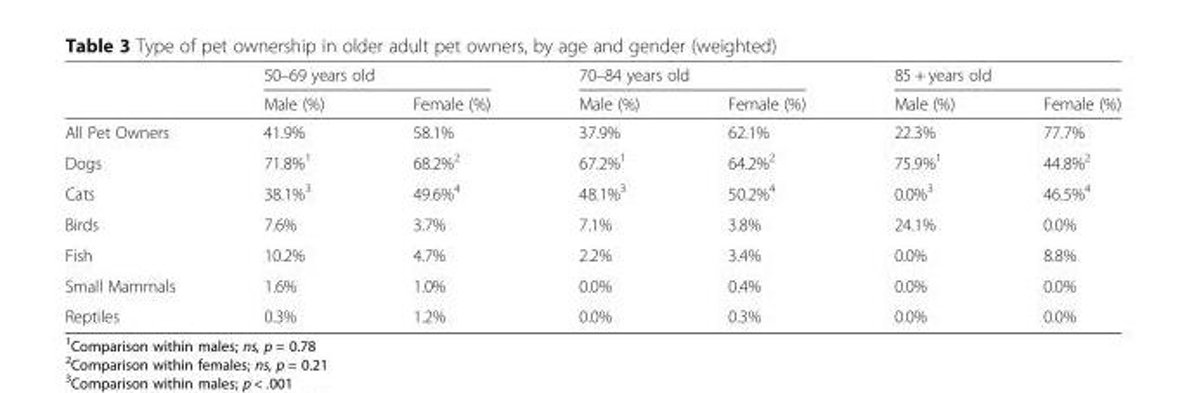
<table><thead><tr><td rowspan="2"></td><td colspan="2">50–69 years old</td><td colspan="2">70–84 years old</td><td colspan="2">85 + years old</td></tr><tr><td>Male (%)</td><td>Female (%)</td><td>Male (%)</td><td>Female (%)</td><td>Male (%)</td><td>Female (%)</td></tr></thead><tbody><tr><td>All Pet Owners</td><td>41.9%</td><td>58.1%</td><td>37.9%</td><td>62.1%</td><td>22.3%</td><td>77.7%</td></tr><tr><td>Dogs</td><td>71.8%<sup>1</sup></td><td>68.2%<sup>2</sup></td><td>67.2%<sup>1</sup></td><td>64.2%<sup>2</sup></td><td>75.9%<sup>1</sup></td><td>44.8%<sup>2</sup></td></tr><tr><td>Cats</td><td>38.1%<sup>3</sup></td><td>49.6%<sup>4</sup></td><td>48.1%<sup>3</sup></td><td>50.2%<sup>4</sup></td><td>0.0%<sup>3</sup></td><td>46.5%<sup>4</sup></td></tr><tr><td>Birds</td><td>7.6%</td><td>3.7%</td><td>7.1%</td><td>3.8%</td><td>24.1%</td><td>0.0%</td></tr><tr><td>Fish</td><td>10.2%</td><td>4.7%</td><td>2.2%</td><td>3.4%</td><td>0.0%</td><td>8.8%</td></tr><tr><td>Small Mammals</td><td>1.6%</td><td>1.0%</td><td>0.0%</td><td>0.4%</td><td>0.0%</td><td>0.0%</td></tr><tr><td>Reptiles</td><td>0.3%</td><td>1.2%</td><td>0.0%</td><td>0.3%</td><td>0.0%</td><td>0.0%</td></tr></tbody></table>